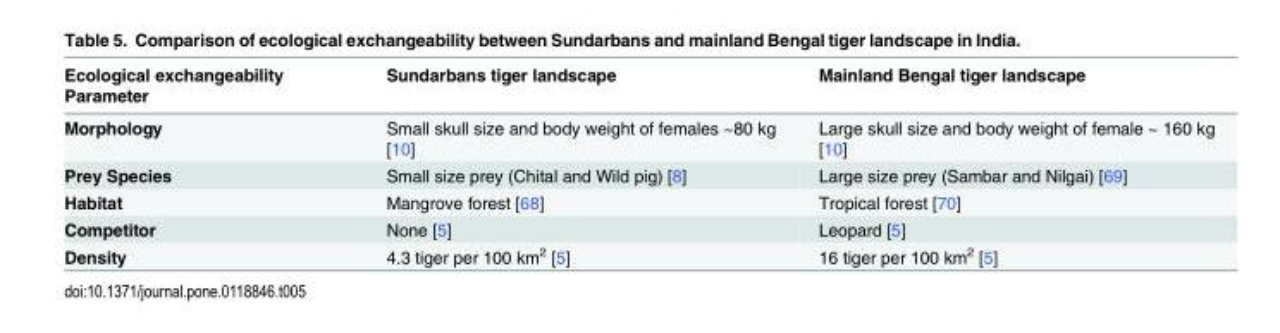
<table><thead><tr><td>Ecological exchangeability Parameter</td><td>Sundarbans tiger landscape</td><td>Mainland Bengal tiger landscape</td></tr></thead><tbody><tr><td>Morphology</td><td>Small skull size and body weight of females ~80 kg [10]</td><td>Large skull size and body weight of female ~ 160 kg [10]</td></tr><tr><td>Prey Species</td><td>Small size prey (Chital and Wild pig) [8]</td><td>Large size prey (Sambar and Nilgai) [69]</td></tr><tr><td>Habitat</td><td>Mangrove forest [68]</td><td>Tropical forest [70]</td></tr><tr><td>Competitor</td><td>None [5]</td><td>Leopard [5]</td></tr><tr><td>Density</td><td>4.3 tiger per 100 km<sup>2</sup> [5]</td><td>16 tiger per 100 km<sup>2</sup> [5]</td></tr></tbody></table>